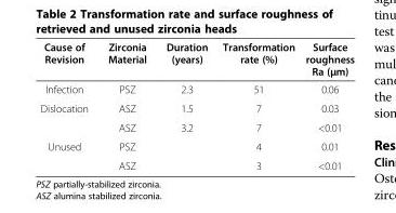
<table><thead><tr><td>Cause of Revision</td><td>Zirconia Material</td><td>Duration (years)</td><td>Transformation rate (%)</td><td>Surface roughness Ra (μm)</td></tr></thead><tbody><tr><td>Infection</td><td>PSZ</td><td>2.3</td><td>51</td><td>0.06</td></tr><tr><td rowspan="2">Dislocation</td><td>ASZ</td><td>1.5</td><td>7</td><td>0.03</td></tr><tr><td>ASZ</td><td>3.2</td><td>7</td><td>&lt;0.01</td></tr><tr><td rowspan="2">Unused</td><td>PSZ</td><td></td><td>4</td><td>0.01</td></tr><tr><td>ASZ</td><td></td><td>3</td><td>&lt;0.01</td></tr></tbody></table>